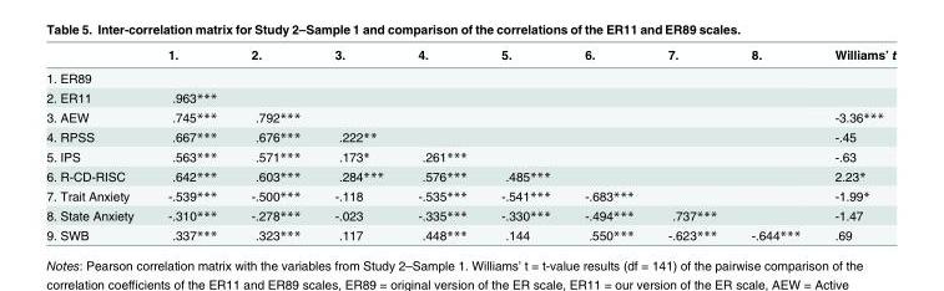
<table><thead><tr><td></td><td>1.</td><td>2.</td><td>3.</td><td>4.</td><td>5.</td><td>6.</td><td>7.</td><td>8.</td><td>Williams’ t</td></tr></thead><tbody><tr><td colspan="10">1. ER89</td></tr><tr><td>2. ER11</td><td>.963***</td><td></td><td></td><td></td><td></td><td></td><td></td><td></td><td></td></tr><tr><td>3. AEW</td><td>.745***</td><td>.792***</td><td></td><td></td><td></td><td></td><td></td><td></td><td>-3.36***</td></tr><tr><td>4. RPSS</td><td>.667***</td><td>.676***</td><td>.222**</td><td></td><td></td><td></td><td></td><td></td><td>-.45</td></tr><tr><td>5. IPS</td><td>.563***</td><td>.571***</td><td>.173*</td><td>.261***</td><td></td><td></td><td></td><td></td><td>-.63</td></tr><tr><td>6. R-CD-RISC</td><td>.642***</td><td>.603***</td><td>.284***</td><td>.576***</td><td>.485***</td><td></td><td></td><td></td><td>2.23*</td></tr><tr><td>7. Trait Anxiety</td><td>-.539***</td><td>-.500***</td><td>-.118</td><td>-.535***</td><td>-.541***</td><td>-.683***</td><td></td><td></td><td>-1.99*</td></tr><tr><td>8. State Anxiety</td><td>-.310***</td><td>-.278***</td><td>-.023</td><td>-.335***</td><td>-.330***</td><td>-.494***</td><td>.737***</td><td></td><td>-1.47</td></tr><tr><td>9. SWB</td><td>.337***</td><td>.323***</td><td>.117</td><td>.448***</td><td>.144</td><td>.550***</td><td>-.623***</td><td>-.644***</td><td>.69</td></tr></tbody></table>